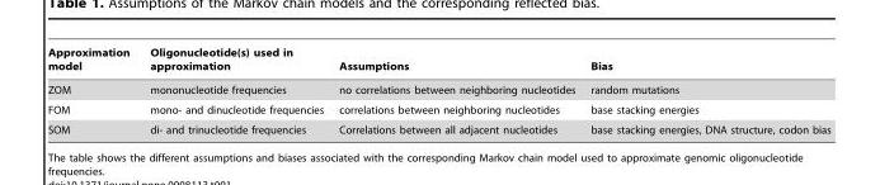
<table><thead><tr><td>Approximation model</td><td>Oligonucleotide(s) used in approximation</td><td>Assumptions</td><td>Bias</td></tr></thead><tbody><tr><td>ZOM</td><td>mononucleotide frequencies</td><td>no correlations between neighboring nucleotides</td><td>random mutations</td></tr><tr><td>FOM</td><td>mono- and dinucleotide frequencies</td><td>correlations between neighboring nucleotides</td><td>base stacking energies</td></tr><tr><td>SOM</td><td>di- and trinucleotide frequencies</td><td>Correlations between all adjacent nucleotides</td><td>base stacking energies, DNA structure, codon bias</td></tr></tbody></table>